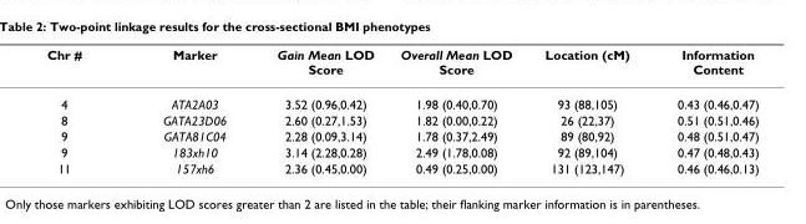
<table><thead><tr><td>Chr #</td><td>Marker</td><td>Gain Mean LOD Score</td><td>Overall Mean LOD Score</td><td>Location (cM)</td><td>Information Content</td></tr></thead><tbody><tr><td>4</td><td>ATA2A03</td><td>3.52 (0.96,0.42)</td><td>1.98 (0.40,0.70)</td><td>93 (88,105)</td><td>0.43 (0.46,0.47)</td></tr><tr><td>8</td><td>GATA23D06</td><td>2.60 (0.27,1.53)</td><td>1.82 (0.00,0.22)</td><td>26 (22,37)</td><td>0.51 (0.51,0.46)</td></tr><tr><td>9</td><td>GATA81C04</td><td>2.28 (0.09,3.14)</td><td>1.78 (0.37,2.49)</td><td>89 (80,92)</td><td>0.48 (0.51,0.47)</td></tr><tr><td>9</td><td>183xh10</td><td>3.14 (2.28,0.28)</td><td>2.49 (1.78,0.08)</td><td>92 (89,104)</td><td>0.47 (0.48,0.43)</td></tr><tr><td>11</td><td>157xh6</td><td>2.36 (0.45,0.00)</td><td>0.49 (0.25,0.00)</td><td>131 (123,147)</td><td>0.46 (0.46,0.13)</td></tr></tbody></table>